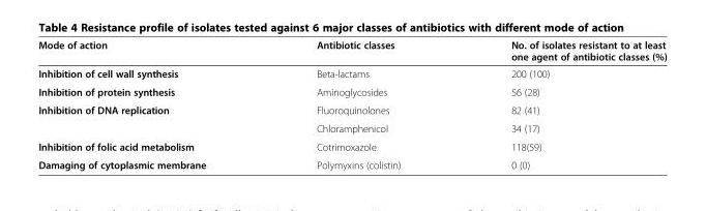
<table><thead><tr><td>Mode of action</td><td>Antibiotic classes</td><td>No. of isolates resistant to at least one agent of antibiotic classes (%)</td></tr></thead><tbody><tr><td>Inhibition of cell wall synthesis</td><td>Beta-lactams</td><td>200 (100)</td></tr><tr><td>Inhibition of protein synthesis</td><td>Aminoglycosides</td><td>56 (28)</td></tr><tr><td rowspan="2">Inhibition of DNA replication</td><td>Fluoroquinolones</td><td>82 (41)</td></tr><tr><td>Chloramphenicol</td><td>34 (17)</td></tr><tr><td>Inhibition of folic acid metabolism</td><td>Cotrimoxazole</td><td>118(59)</td></tr><tr><td>Damaging of cytoplasmic membrane</td><td>Polymyxins (colistin)</td><td>0 (0)</td></tr></tbody></table>